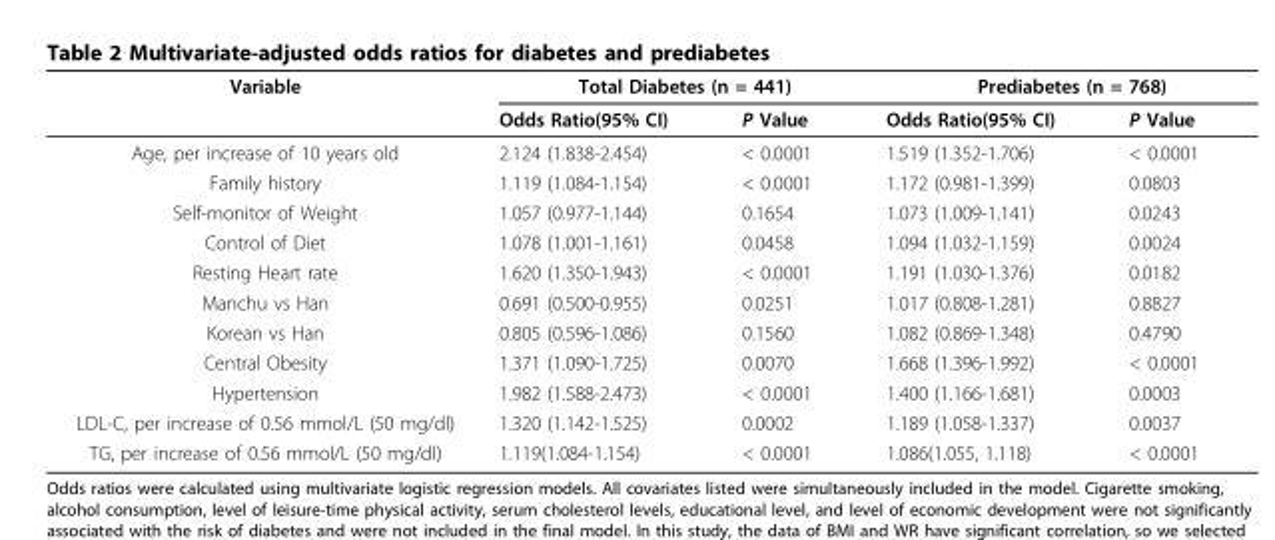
<table><thead><tr><td rowspan="2">Variable</td><td colspan="2">Total Diabetes (n = 441)</td><td colspan="2">Prediabetes (n = 768)</td></tr><tr><td>Odds Ratio(95% CI)</td><td>P Value</td><td>Odds Ratio(95% CI)</td><td>P Value</td></tr></thead><tbody><tr><td>Age, per increase of 10 years old</td><td>2.124 (1.838-2.454)</td><td>&lt; 0.0001</td><td>1.519 (1.352-1.706)</td><td>&lt; 0.0001</td></tr><tr><td>Family history</td><td>1.119 (1.084-1.154)</td><td>&lt; 0.0001</td><td>1.172 (0.981-1.399)</td><td>0.0803</td></tr><tr><td>Self-monitor of Weight</td><td>1.057 (0.977-1.144)</td><td>0.1654</td><td>1.073 (1.009-1.141)</td><td>0.0243</td></tr><tr><td>Control of Diet</td><td>1.078 (1.001-1.161)</td><td>0.0458</td><td>1.094 (1.032-1.159)</td><td>0.0024</td></tr><tr><td>Resting Heart rate</td><td>1.620 (1.350-1.943)</td><td>&lt; 0.0001</td><td>1.191 (1.030-1.376)</td><td>0.0182</td></tr><tr><td>Manchu vs Han</td><td>0.691 (0.500-0.955)</td><td>0.0251</td><td>1.017 (0.808-1.281)</td><td>0.8827</td></tr><tr><td>Korean vs Han</td><td>0.805 (0.596-1.086)</td><td>0.1560</td><td>1.082 (0.869-1.348)</td><td>0.4790</td></tr><tr><td>Central Obesity</td><td>1.371 (1.090-1.725)</td><td>0.0070</td><td>1.668 (1.396-1.992)</td><td>&lt; 0.0001</td></tr><tr><td>Hypertension</td><td>1.982 (1.588-2.473)</td><td>&lt; 0.0001</td><td>1.400 (1.166-1.681)</td><td>0.0003</td></tr><tr><td>LDL-C, per increase of 0.56 mmol/L (50 mg/dl)</td><td>1.320 (1.142-1.525)</td><td>0.0002</td><td>1.189 (1.058-1.337)</td><td>0.0037</td></tr><tr><td>TG, per increase of 0.56 mmol/L (50 mg/dl)</td><td>1.119(1.084-1.154)</td><td>&lt; 0.0001</td><td>1.086(1.055, 1.118)</td><td>&lt; 0.0001</td></tr></tbody></table>